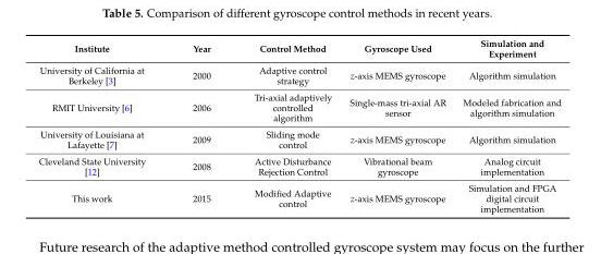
<table><thead><tr><td>Institute</td><td>Year</td><td>Control Method</td><td>Gyroscope Used</td><td>Simulation and Experiment</td></tr></thead><tbody><tr><td>University of California at Berkeley [3]</td><td>2000</td><td>Adaptive control strategy</td><td>z-axis MEMS gyroscope</td><td>Algorithm simulation</td></tr><tr><td>RMIT University [6]</td><td>2006</td><td>Tri-axial adaptively controlled algorithm</td><td>Single-mass tri-axial AR sensor</td><td>Modeled fabrication and algorithm simulation</td></tr><tr><td>University of Louisiana at Lafayette [7]</td><td>2009</td><td>Sliding mode control</td><td>z-axis MEMS gyroscope</td><td>Algorithm simulation</td></tr><tr><td>Cleveland State University [12]</td><td>2008</td><td>Active Disturbance Rejection Control</td><td>Vibrational beam gyroscope</td><td>Analog circuit implementation</td></tr><tr><td>This work</td><td>2015</td><td>Modified Adaptive control</td><td>z-axis MEMS gyroscope</td><td>Simulation and FPGA digital circuit implementation</td></tr></tbody></table>